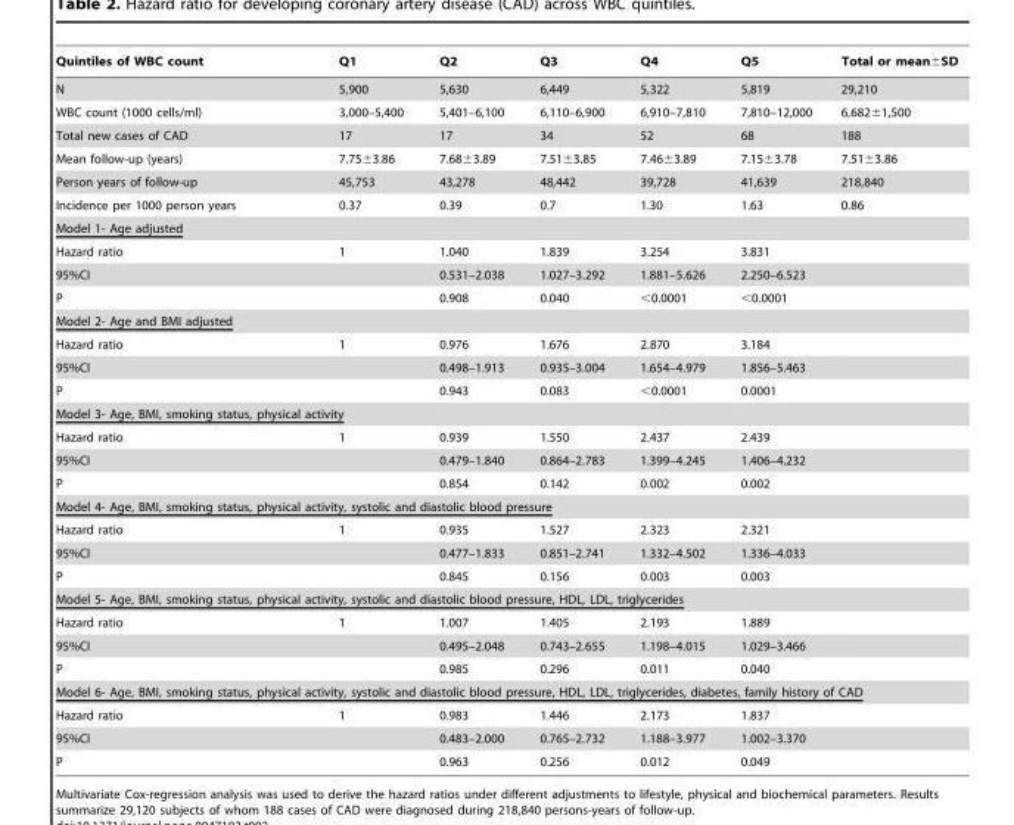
<table><thead><tr><td>Quintiles of WBC count</td><td>Q1</td><td>Q2</td><td>Q3</td><td>Q4</td><td>Q5</td><td>Total or mean±SD</td></tr></thead><tbody><tr><td>N</td><td>5,900</td><td>5,630</td><td>6,449</td><td>5,322</td><td>5,819</td><td>29,210</td></tr><tr><td>WBC count (1000 cells/ml)</td><td>3,000–5,400</td><td>5,401–6,100</td><td>6,110–6,900</td><td>6,910–7,810</td><td>7,810–12,000</td><td>6,682±1,500</td></tr><tr><td>Total new cases of CAD</td><td>17</td><td>17</td><td>34</td><td>52</td><td>68</td><td>188</td></tr><tr><td>Mean follow-up (years)</td><td>7.75±3.86</td><td>7.68±3.89</td><td>7.51±3.85</td><td>7.46±3.89</td><td>7.15±3.78</td><td>7.51±3.86</td></tr><tr><td>Person years of follow-up</td><td>45,753</td><td>43,278</td><td>48,442</td><td>39,728</td><td>41,639</td><td>218,840</td></tr><tr><td>Incidence per 1000 person years</td><td>0.37</td><td>0.39</td><td>0.7</td><td>1.30</td><td>1.63</td><td>0.86</td></tr><tr><td colspan="7">Model 1- Age adjusted</td></tr><tr><td>Hazard ratio</td><td>1</td><td>1.040</td><td>1.839</td><td>3.254</td><td>3.831</td><td></td></tr><tr><td>95%CI</td><td></td><td>0.531–2.038</td><td>1.027–3.292</td><td>1.881–5.626</td><td>2.250–6.523</td><td></td></tr><tr><td>P</td><td></td><td>0.908</td><td>0.040</td><td>&lt;0.0001</td><td>&lt;0.0001</td><td></td></tr><tr><td colspan="7">Model 2- Age and BMI adjusted</td></tr><tr><td>Hazard ratio</td><td>1</td><td>0.976</td><td>1.676</td><td>2.870</td><td>3.184</td><td></td></tr><tr><td>95%CI</td><td></td><td>0.498–1.913</td><td>0.935–3.004</td><td>1.654–4.979</td><td>1.856–5.463</td><td></td></tr><tr><td>P</td><td></td><td>0.943</td><td>0.083</td><td>&lt;0.0001</td><td>0.0001</td><td></td></tr><tr><td colspan="7">Model 3- Age, BMI, smoking status, physical activity</td></tr><tr><td>Hazard ratio</td><td>1</td><td>0.939</td><td>1.550</td><td>2.437</td><td>2.439</td><td></td></tr><tr><td>95%CI</td><td></td><td>0.479–1.840</td><td>0.864–2.783</td><td>1.399–4.245</td><td>1.406–4.232</td><td></td></tr><tr><td>P</td><td></td><td>0.854</td><td>0.142</td><td>0.002</td><td>0.002</td><td></td></tr><tr><td colspan="7">Model 4- Age, BMI, smoking status, physical activity, systolic and diastolic blood pressure</td></tr><tr><td>Hazard ratio</td><td>1</td><td>0.935</td><td>1.527</td><td>2.323</td><td>2.321</td><td></td></tr><tr><td>95%CI</td><td></td><td>0.477–1.833</td><td>0.851–2.741</td><td>1.332–4.502</td><td>1.336–4.033</td><td></td></tr><tr><td>P</td><td></td><td>0.845</td><td>0.156</td><td>0.003</td><td>0.003</td><td></td></tr><tr><td colspan="7">Model 5- Age, BMI, smoking status, physical activity, systolic and diastolic blood pressure, HDL, LDL, triglycerides</td></tr><tr><td>Hazard ratio</td><td>1</td><td>1.007</td><td>1.405</td><td>2.193</td><td>1.889</td><td></td></tr><tr><td>95%CI</td><td></td><td>0.495–2.048</td><td>0.743–2.655</td><td>1.198–4.015</td><td>1.029–3.466</td><td></td></tr><tr><td>P</td><td></td><td>0.985</td><td>0.296</td><td>0.011</td><td>0.040</td><td></td></tr><tr><td colspan="7">Model 6- Age, BMI, smoking status, physical activity, systolic and diastolic blood pressure, HDL, LDL, triglycerides, diabetes, family history of CAD</td></tr><tr><td>Hazard ratio</td><td>1</td><td>0.983</td><td>1.446</td><td>2.173</td><td>1.837</td><td></td></tr><tr><td>95%CI</td><td></td><td>0.483–2.000</td><td>0.765–2.732</td><td>1.188–3.977</td><td>1.002–3.370</td><td></td></tr><tr><td>P</td><td></td><td>0.963</td><td>0.256</td><td>0.012</td><td>0.049</td><td></td></tr></tbody></table>